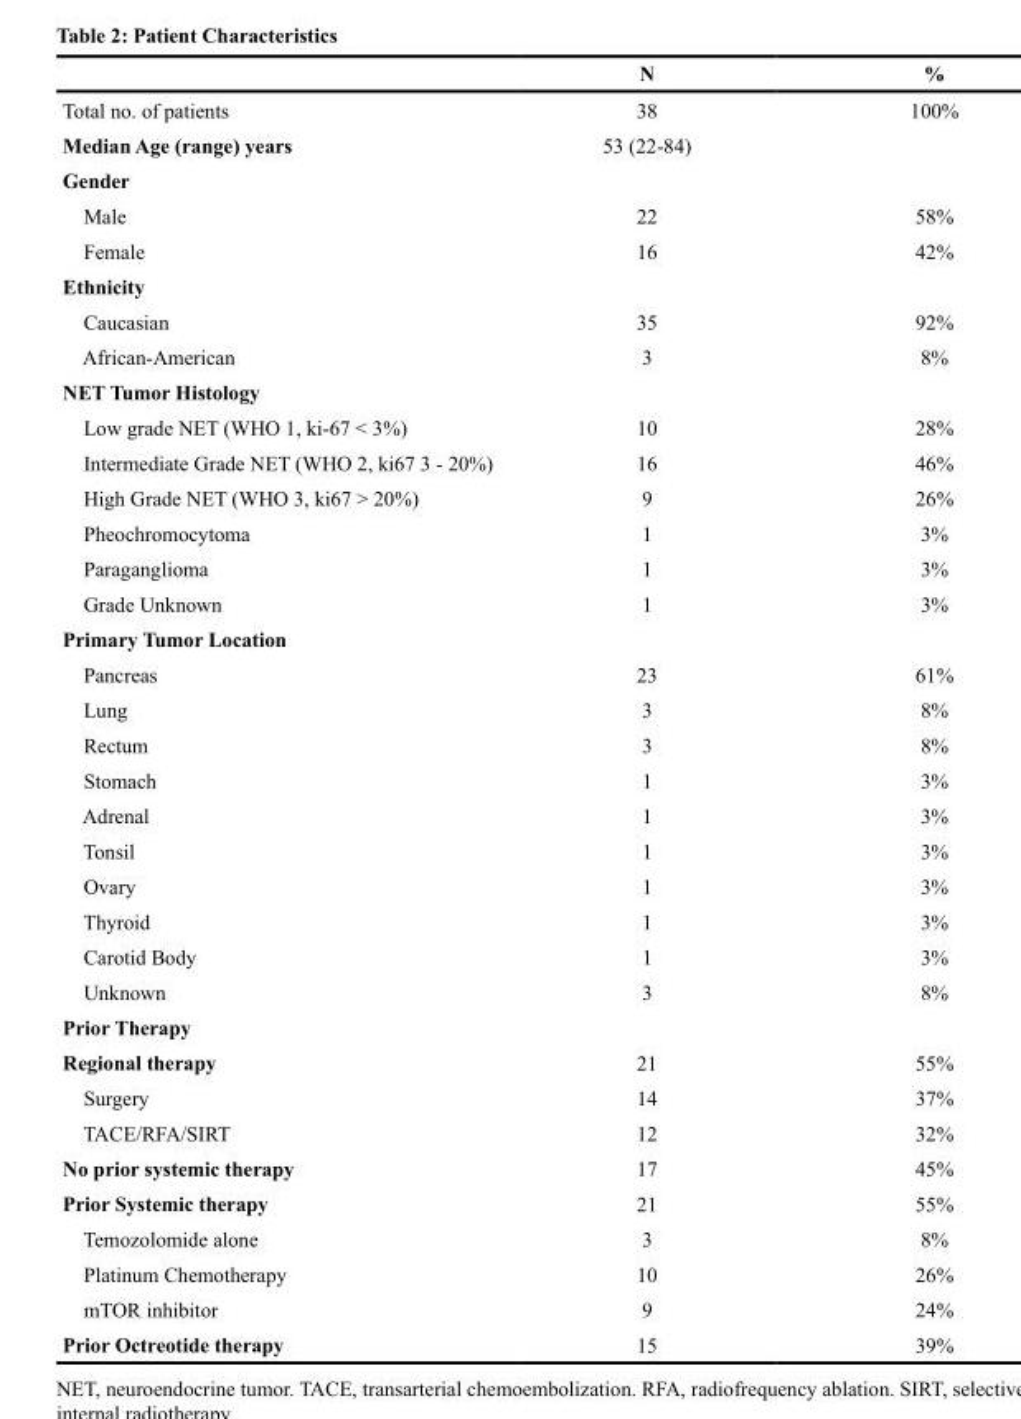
<table><thead><tr><td></td><td>N</td><td>%</td></tr></thead><tbody><tr><td>Total no. of patients</td><td>38</td><td>100%</td></tr><tr><td>Median Age (range) years</td><td>53 (22-84)</td><td></td></tr><tr><td colspan="3">Gender</td></tr><tr><td>Male</td><td>22</td><td>58%</td></tr><tr><td>Female</td><td>16</td><td>42%</td></tr><tr><td colspan="3">Ethnicity</td></tr><tr><td>Caucasian</td><td>35</td><td>92%</td></tr><tr><td>African-American</td><td>3</td><td>8%</td></tr><tr><td colspan="3">NET Tumor Histology</td></tr><tr><td>Low grade NET (WHO 1, ki-67 &lt; 3%)</td><td>10</td><td>28%</td></tr><tr><td>Intermediate Grade NET (WHO 2, ki67 3 - 20%)</td><td>16</td><td>46%</td></tr><tr><td>High Grade NET (WHO 3, ki67 &gt; 20%)</td><td>9</td><td>26%</td></tr><tr><td>Pheochromocytoma</td><td>1</td><td>3%</td></tr><tr><td>Paraganglioma</td><td>1</td><td>3%</td></tr><tr><td>Grade Unknown</td><td>1</td><td>3%</td></tr><tr><td colspan="3">Primary Tumor Location</td></tr><tr><td>Pancreas</td><td>23</td><td>61%</td></tr><tr><td>Lung</td><td>3</td><td>8%</td></tr><tr><td>Rectum</td><td>3</td><td>8%</td></tr><tr><td>Stomach</td><td>1</td><td>3%</td></tr><tr><td>Adrenal</td><td>1</td><td>3%</td></tr><tr><td>Tonsil</td><td>1</td><td>3%</td></tr><tr><td>Ovary</td><td>1</td><td>3%</td></tr><tr><td>Thyroid</td><td>1</td><td>3%</td></tr><tr><td>Carotid Body</td><td>1</td><td>3%</td></tr><tr><td>Unknown</td><td>3</td><td>8%</td></tr><tr><td colspan="3">Prior Therapy</td></tr><tr><td>Regional therapy</td><td>21</td><td>55%</td></tr><tr><td>Surgery</td><td>14</td><td>37%</td></tr><tr><td>TACE/RFA/SIRT</td><td>12</td><td>32%</td></tr><tr><td>No prior systemic therapy</td><td>17</td><td>45%</td></tr><tr><td>Prior Systemic therapy</td><td>21</td><td>55%</td></tr><tr><td>Temozolomide alone</td><td>3</td><td>8%</td></tr><tr><td>Platinum Chemotherapy</td><td>10</td><td>26%</td></tr><tr><td>mTOR inhibitor</td><td>9</td><td>24%</td></tr><tr><td>Prior Octreotide therapy</td><td>15</td><td>39%</td></tr></tbody></table>